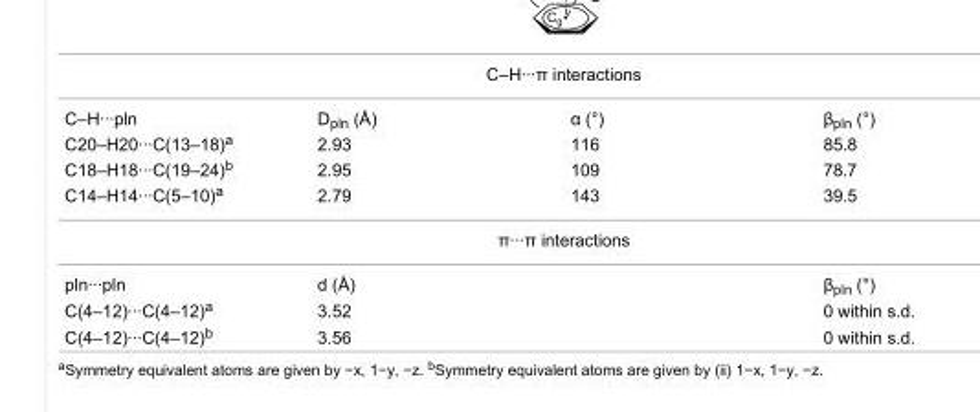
<table><tbody><tr><td colspan="4">C–H···π interactions</td></tr><tr><td>C–H···pln</td><td>D<sub>pln</sub> (Å)</td><td>α (°)</td><td>β<sub>pln</sub> (°)</td></tr><tr><td>C20–H20···C(13–18)<sup>a</sup></td><td>2.93</td><td>116</td><td>85.8</td></tr><tr><td>C18–H18···C(19–24)<sup>b</sup></td><td>2.95</td><td>109</td><td>78.7</td></tr><tr><td>C14–H14···C(5–10)<sup>a</sup></td><td>2.79</td><td>143</td><td>39.5</td></tr><tr><td colspan="4">π···π interactions</td></tr><tr><td>pln···pln</td><td>d (Å)</td><td></td><td>β<sub>pln</sub> (°)</td></tr><tr><td>C(4–12)···C(4–12)<sup>a</sup></td><td>3.52</td><td></td><td>0 within s.d.</td></tr><tr><td>C(4–12)···C(4–12)<sup>b</sup></td><td>3.56</td><td></td><td>0 within s.d.</td></tr></tbody></table>